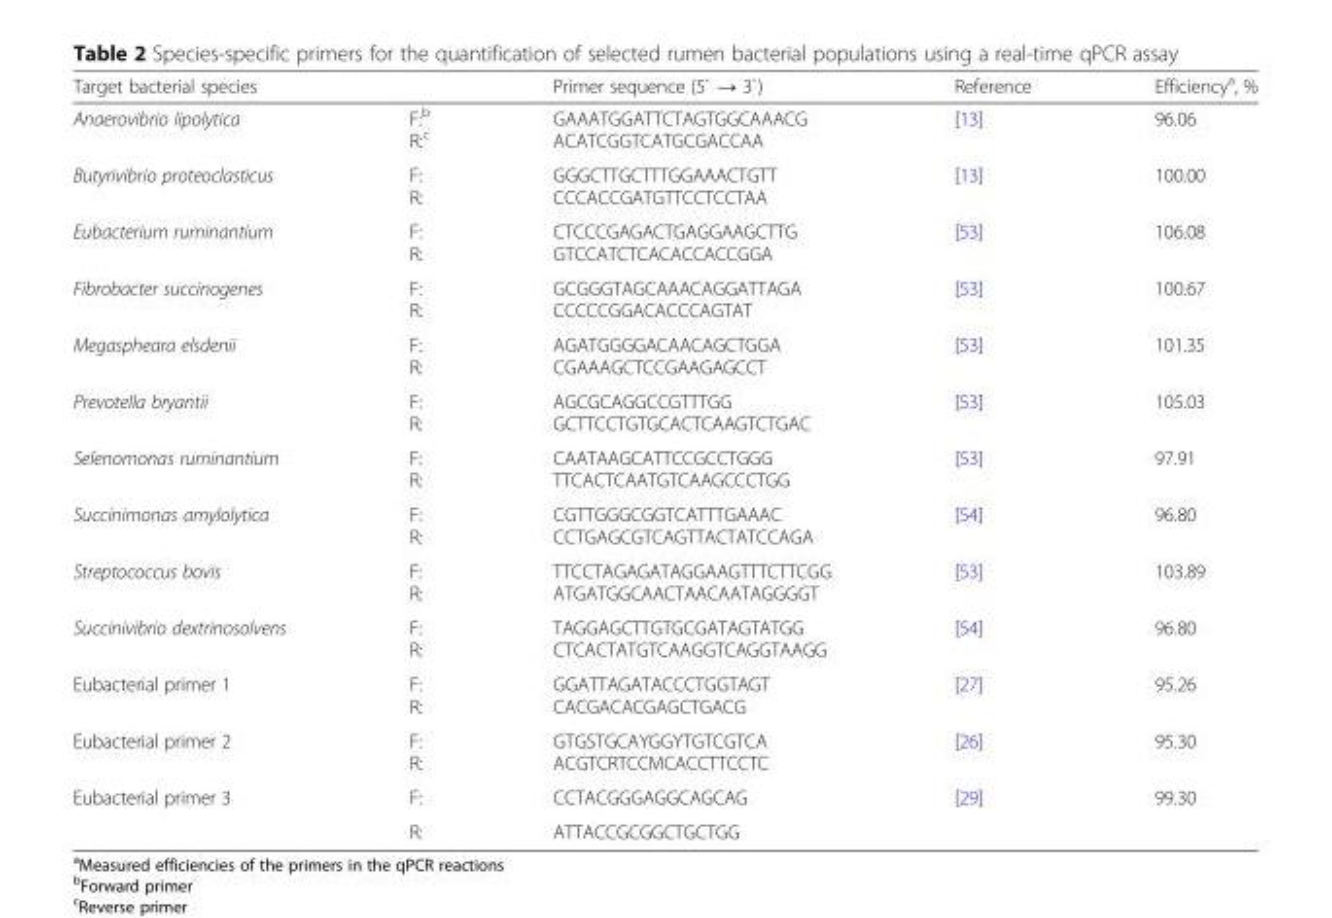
<table><thead><tr><td>Target bacterial species</td><td></td><td>Primer sequence (5` → 3`)</td><td>Reference</td><td>Efficiency<sup>a</sup>, %</td></tr></thead><tbody><tr><td>Anaerovibrio lipolytica</td><td>F:<sup>b</sup> R:<sup>c</sup></td><td>GAAATGGATTCTAGTGGCAAACG ACATCGGTCATGCGACCAA</td><td>[13]</td><td>96.06</td></tr><tr><td>Butyrivibrio proteoclasticus</td><td>F: R:</td><td>GGGCTTGCTTTGGAAACTGTT CCCACCGATGTTCCTCCTAA</td><td>[13]</td><td>100.00</td></tr><tr><td>Eubacterium ruminantium</td><td>F: R:</td><td>CTCCCGAGACTGAGGAAGCTTG GTCCATCTCACACCACCGGA</td><td>[53]</td><td>106.08</td></tr><tr><td>Fibrobacter succinogenes</td><td>F: R:</td><td>GCGGGTAGCAAACAGGATTAGA CCCCCGGACACCCAGTAT</td><td>[53]</td><td>100.67</td></tr><tr><td>Megaspheara elsdenii</td><td>F: R:</td><td>AGATGGGGACAACAGCTGGA CGAAAGCTCCGAAGAGCCT</td><td>[53]</td><td>101.35</td></tr><tr><td>Prevotella bryantii</td><td>F: R:</td><td>AGCGCAGGCCGTTTGG GCTTCCTGTGCACTCAAGTCTGAC</td><td>[53]</td><td>105.03</td></tr><tr><td>Selenomonas ruminantium</td><td>F: R:</td><td>CAATAAGCATTCCGCCTGGG TTCACTCAATGTCAAGCCCTGG</td><td>[53]</td><td>97.91</td></tr><tr><td>Succinimonas amylolytica</td><td>F: R:</td><td>CGTTGGGCGGTCATTTGAAAC CCTGAGCGTCAGTTACTATCCAGA</td><td>[54]</td><td>96.80</td></tr><tr><td>Streptococcus bovis</td><td>F: R:</td><td>TTCCTAGAGATAGGAAGTTTCTTCGG ATGATGGCAACTAACAATAGGGGT</td><td>[53]</td><td>103.89</td></tr><tr><td>Succinivibrio dextrinosolvens</td><td>F: R:</td><td>TAGGAGCTTGTGCGATAGTATGG CTCACTATGTCAAGGTCAGGTAAGG</td><td>[54]</td><td>96.80</td></tr><tr><td>Eubacterial primer 1</td><td>F: R:</td><td>GGATTAGATACCCTGGTAGT CACGACACGAGCTGACG</td><td>[27]</td><td>95.26</td></tr><tr><td>Eubacterial primer 2</td><td>F: R:</td><td>GTGSTGCAYGGYTGTCGTCA ACGTCRTCCMCACCTTCCTC</td><td>[26]</td><td>95.30</td></tr><tr><td rowspan="2">Eubacterial primer 3</td><td>F:</td><td>CCTACGGGAGGCAGCAG</td><td>[29]</td><td>99.30</td></tr><tr><td>R:</td><td>ATTACCGCGGCTGCTGG</td><td></td><td></td></tr></tbody></table>